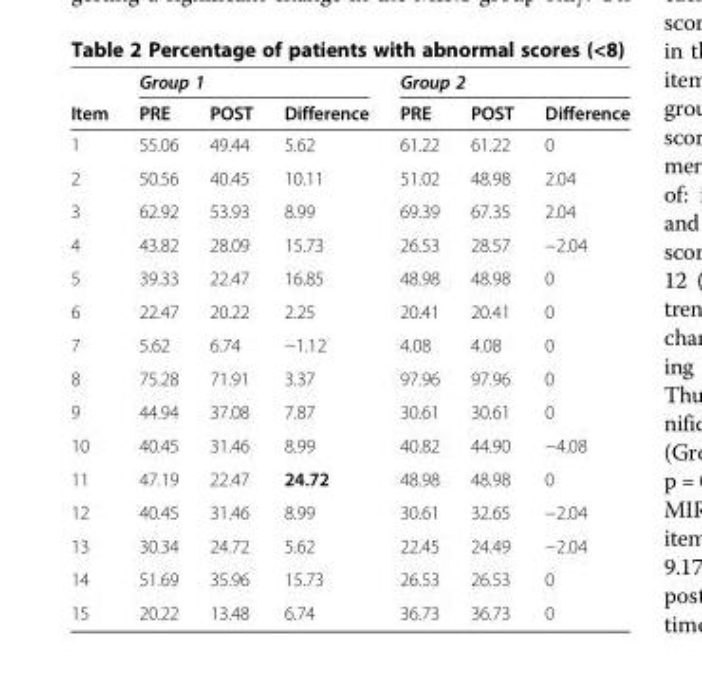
<table><thead><tr><td rowspan="2">Item</td><td colspan="3">Group 1</td><td colspan="3">Group 2</td></tr><tr><td>PRE</td><td>POST</td><td>Difference</td><td>PRE</td><td>POST</td><td>Difference</td></tr></thead><tbody><tr><td>1</td><td>55.06</td><td>49.44</td><td>5.62</td><td>61.22</td><td>61.22</td><td>0</td></tr><tr><td>2</td><td>50.56</td><td>40.45</td><td>10.11</td><td>51.02</td><td>48.98</td><td>2.04</td></tr><tr><td>3</td><td>62.92</td><td>53.93</td><td>8.99</td><td>69.39</td><td>67.35</td><td>2.04</td></tr><tr><td>4</td><td>43.82</td><td>28.09</td><td>15.73</td><td>26.53</td><td>28.57</td><td>−2.04</td></tr><tr><td>5</td><td>39.33</td><td>22.47</td><td>16.85</td><td>48.98</td><td>48.98</td><td>0</td></tr><tr><td>6</td><td>22.47</td><td>20.22</td><td>2.25</td><td>20.41</td><td>20.41</td><td>0</td></tr><tr><td>7</td><td>5.62</td><td>6.74</td><td>−1.12</td><td>4.08</td><td>4.08</td><td>0</td></tr><tr><td>8</td><td>75.28</td><td>71.91</td><td>3.37</td><td>97.96</td><td>97.96</td><td>0</td></tr><tr><td>9</td><td>44.94</td><td>37.08</td><td>7.87</td><td>30.61</td><td>30.61</td><td>0</td></tr><tr><td>10</td><td>40.45</td><td>31.46</td><td>8.99</td><td>40.82</td><td>44.90</td><td>−4.08</td></tr><tr><td>11</td><td>47.19</td><td>22.47</td><td>24.72</td><td>48.98</td><td>48.98</td><td>0</td></tr><tr><td>12</td><td>40.45</td><td>31.46</td><td>8.99</td><td>30.61</td><td>32.65</td><td>−2.04</td></tr><tr><td>13</td><td>30.34</td><td>24.72</td><td>5.62</td><td>22.45</td><td>24.49</td><td>−2.04</td></tr><tr><td>14</td><td>51.69</td><td>35.96</td><td>15.73</td><td>26.53</td><td>26.53</td><td>0</td></tr><tr><td>15</td><td>20.22</td><td>13.48</td><td>6.74</td><td>36.73</td><td>36.73</td><td>0</td></tr></tbody></table>